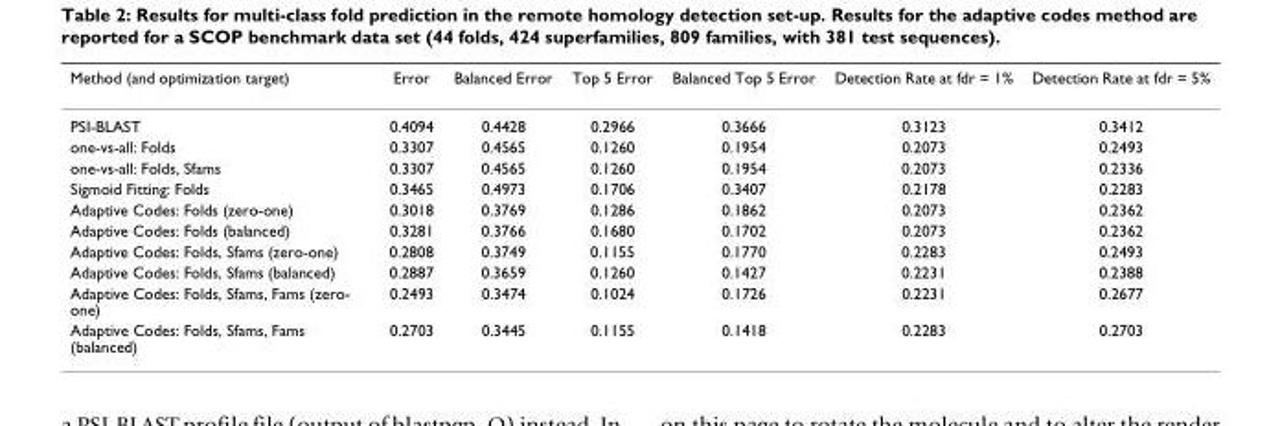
<table><thead><tr><td>Method (and optimization target)</td><td>Error</td><td>Balanced Error</td><td>Top 5 Error</td><td>Balanced Top 5 Error</td><td>Detection Rate at fdr = 1%</td><td>Detection Rate at fdr = 5%</td></tr></thead><tbody><tr><td>PSI-BLAST</td><td>0.4094</td><td>0.4428</td><td>0.2966</td><td>0.3666</td><td>0.3123</td><td>0.3412</td></tr><tr><td>one-vs-all: Folds</td><td>0.3307</td><td>0.4565</td><td>0.1260</td><td>0.1954</td><td>0.2073</td><td>0.2493</td></tr><tr><td>one-vs-all: Folds, Sfams</td><td>0.3307</td><td>0.4565</td><td>0.1260</td><td>0.1954</td><td>0.2073</td><td>0.2336</td></tr><tr><td>Sigmoid Fitting: Folds</td><td>0.3465</td><td>0.4973</td><td>0.1706</td><td>0.3407</td><td>0.2178</td><td>0.2283</td></tr><tr><td>Adaptive Codes: Folds (zero-one)</td><td>0.3018</td><td>0.3769</td><td>0.1286</td><td>0.1862</td><td>0.2073</td><td>0.2362</td></tr><tr><td>Adaptive Codes: Folds (balanced)</td><td>0.3281</td><td>0.3766</td><td>0.1680</td><td>0.1702</td><td>0.2073</td><td>0.2362</td></tr><tr><td>Adaptive Codes: Folds, Sfams (zero-one)</td><td>0.2808</td><td>0.3749</td><td>0.1155</td><td>0.1770</td><td>0.2283</td><td>0.2493</td></tr><tr><td>Adaptive Codes: Folds, Sfams (balanced)</td><td>0.2887</td><td>0.3659</td><td>0.1260</td><td>0.1427</td><td>0.2231</td><td>0.2388</td></tr><tr><td>Adaptive Codes: Folds, Sfams, Fams (zero- one)</td><td>0.2493</td><td>0.3474</td><td>0.1024</td><td>0.1726</td><td>0.2231</td><td>0.2677</td></tr><tr><td>Adaptive Codes: Folds, Sfams, Fams (balanced)</td><td>0.2703</td><td>0.3445</td><td>0.1155</td><td>0.1418</td><td>0.2283</td><td>0.2703</td></tr></tbody></table>